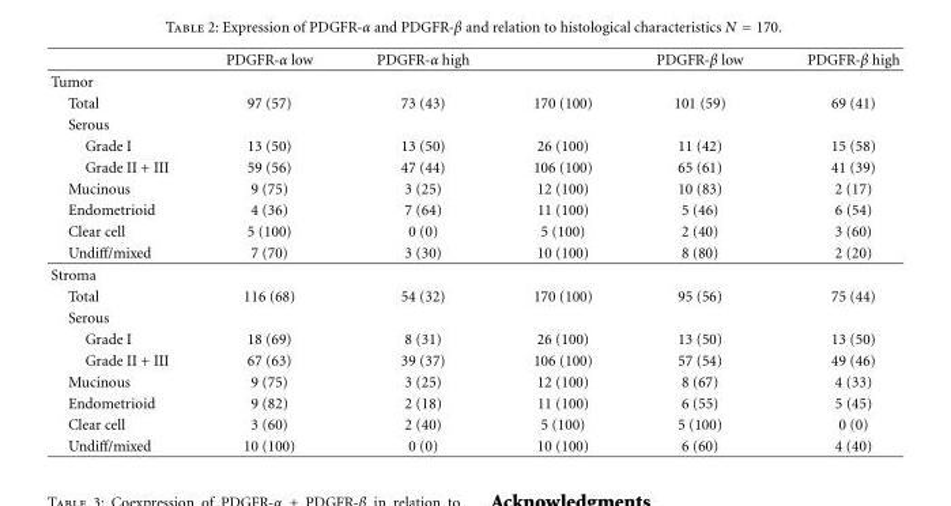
<table><thead><tr><td></td><td>PDGFR-α low</td><td>PDGFR-α high</td><td></td><td>PDGFR-β low</td><td>PDGFR-β high</td></tr></thead><tbody><tr><td colspan="6">Tumor</td></tr><tr><td>Total</td><td>97 (57)</td><td>73 (43)</td><td>170 (100)</td><td>101 (59)</td><td>69 (41)</td></tr><tr><td colspan="6">Serous</td></tr><tr><td>Grade I</td><td>13 (50)</td><td>13 (50)</td><td>26 (100)</td><td>11 (42)</td><td>15 (58)</td></tr><tr><td>Grade II + III</td><td>59 (56)</td><td>47 (44)</td><td>106 (100)</td><td>65 (61)</td><td>41 (39)</td></tr><tr><td>Mucinous</td><td>9 (75)</td><td>3 (25)</td><td>12 (100)</td><td>10 (83)</td><td>2 (17)</td></tr><tr><td>Endometrioid</td><td>4 (36)</td><td>7 (64)</td><td>11 (100)</td><td>5 (46)</td><td>6 (54)</td></tr><tr><td>Clear cell</td><td>5 (100)</td><td>0 (0)</td><td>5 (100)</td><td>2 (40)</td><td>3 (60)</td></tr><tr><td>Undiff/mixed</td><td>7 (70)</td><td>3 (30)</td><td>10 (100)</td><td>8 (80)</td><td>2 (20)</td></tr><tr><td colspan="6">Stroma</td></tr><tr><td>Total</td><td>116 (68)</td><td>54 (32)</td><td>170 (100)</td><td>95 (56)</td><td>75 (44)</td></tr><tr><td colspan="6">Serous</td></tr><tr><td>Grade I</td><td>18 (69)</td><td>8 (31)</td><td>26 (100)</td><td>13 (50)</td><td>13 (50)</td></tr><tr><td>Grade II + III</td><td>67 (63)</td><td>39 (37)</td><td>106 (100)</td><td>57 (54)</td><td>49 (46)</td></tr><tr><td>Mucinous</td><td>9 (75)</td><td>3 (25)</td><td>12 (100)</td><td>8 (67)</td><td>4 (33)</td></tr><tr><td>Endometrioid</td><td>9 (82)</td><td>2 (18)</td><td>11 (100)</td><td>6 (55)</td><td>5 (45)</td></tr><tr><td>Clear cell</td><td>3 (60)</td><td>2 (40)</td><td>5 (100)</td><td>5 (100)</td><td>0 (0)</td></tr><tr><td>Undiff/mixed</td><td>10 (100)</td><td>0 (0)</td><td>10 (100)</td><td>6 (60)</td><td>4 (40)</td></tr></tbody></table>